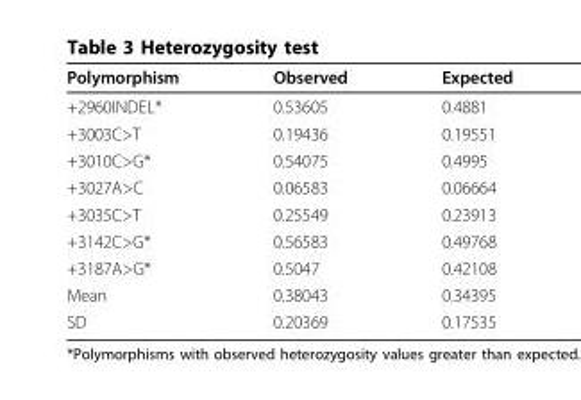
<table><thead><tr><td>Polymorphism</td><td>Observed</td><td>Expected</td></tr></thead><tbody><tr><td>+2960INDEL*</td><td>0.53605</td><td>0.4881</td></tr><tr><td>+3003C&gt;T</td><td>0.19436</td><td>0.19551</td></tr><tr><td>+3010C&gt;G*</td><td>0.54075</td><td>0.4995</td></tr><tr><td>+3027A&gt;C</td><td>0.06583</td><td>0.06664</td></tr><tr><td>+3035C&gt;T</td><td>0.25549</td><td>0.23913</td></tr><tr><td>+3142C&gt;G*</td><td>0.56583</td><td>0.49768</td></tr><tr><td>+3187A&gt;G*</td><td>0.5047</td><td>0.42108</td></tr><tr><td>Mean</td><td>0.38043</td><td>0.34395</td></tr><tr><td>SD</td><td>0.20369</td><td>0.17535</td></tr></tbody></table>